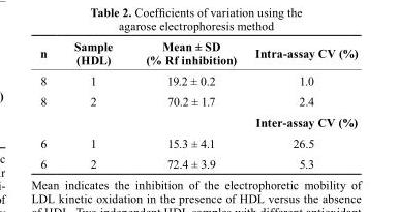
<table><thead><tr><td>n</td><td>sample (HDL)</td><td>Mean ± sD (% rf inhibition)</td><td>Intra-assay cV (%)</td></tr></thead><tbody><tr><td>8</td><td>1</td><td>19.2 ± 0.2</td><td>1.0</td></tr><tr><td rowspan="2">8</td><td>2</td><td>70.2 ± 1.7</td><td>2.4</td></tr><tr><td></td><td></td><td>Inter-assay cV (%)</td></tr><tr><td>6</td><td>1</td><td>15.3 ± 4.1</td><td>26.5</td></tr><tr><td>6</td><td>2</td><td>72.4 ± 3.9</td><td>5.3</td></tr></tbody></table>